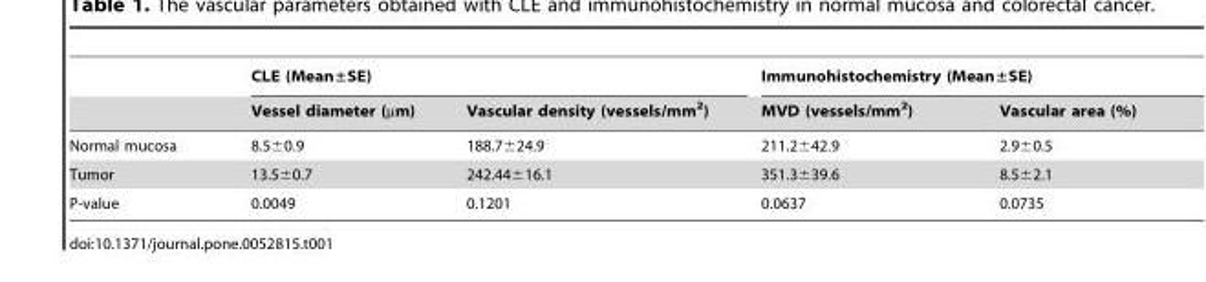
<table><thead><tr><td rowspan="2"></td><td colspan="2">CLE (Mean±SE)</td><td colspan="2">Immunohistochemistry (Mean±SE)</td></tr><tr><td>Vessel diameter (µm)</td><td>Vascular density (vessels/mm<sup>2</sup>)</td><td>MVD (vessels/mm<sup>2</sup>)</td><td>Vascular area (%)</td></tr></thead><tbody><tr><td>Normal mucosa</td><td>8.5±0.9</td><td>188.7±24.9</td><td>211.2±42.9</td><td>2.9±0.5</td></tr><tr><td>Tumor</td><td>13.5±0.7</td><td>242.44±16.1</td><td>351.3±39.6</td><td>8.5±2.1</td></tr><tr><td>P-value</td><td>0.0049</td><td>0.1201</td><td>0.0637</td><td>0.0735</td></tr></tbody></table>